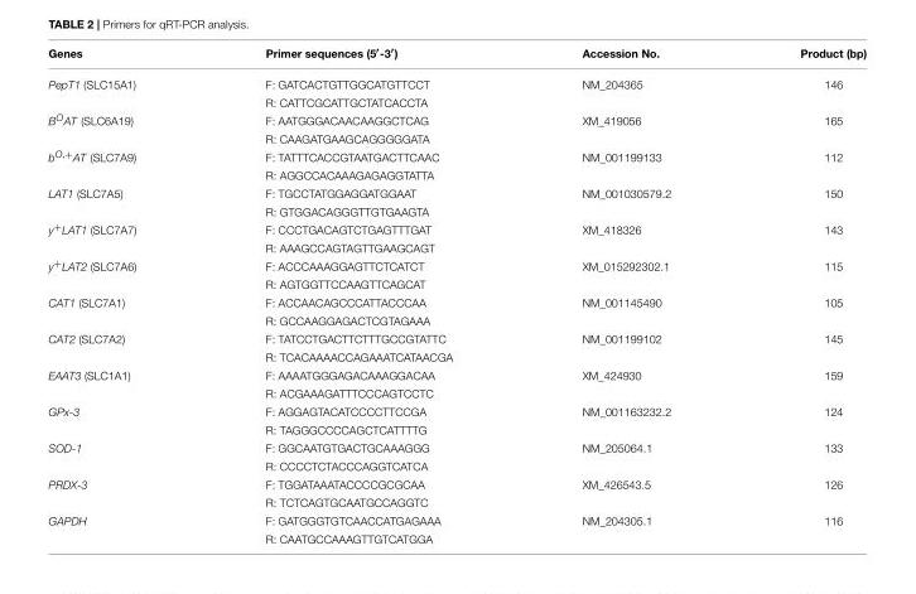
<table><thead><tr><td>Genes</td><td>Primer sequences (5′-3′)</td><td>Accession No.</td><td>Product (bp)</td></tr></thead><tbody><tr><td rowspan="2">PepT1 (SLC15A1)</td><td>F: GATCACTGTTGGCATGTTCCT</td><td>NM_204365</td><td>146</td></tr><tr><td>R: CATTCGCATTGCTATCACCTA</td><td></td><td></td></tr><tr><td rowspan="2">BOAT (SLC6A19)</td><td>F: AATGGGACAACAAGGCTCAG</td><td>XM_419056</td><td>165</td></tr><tr><td>R: CAAGATGAAGCAGGGGGATA</td><td></td><td></td></tr><tr><td rowspan="2">bO,+AT (SLC7A9)</td><td>F: TATTTCACCGTAATGACTTCAAC</td><td>NM_001199133</td><td>112</td></tr><tr><td>R: AGGCCACAAAGAGAGGTATTA</td><td></td><td></td></tr><tr><td rowspan="2">LAT1 (SLC7A5)</td><td>F: TGCCTATGGAGGATGGAAT</td><td>NM_001030579.2</td><td>150</td></tr><tr><td>R: GTGGACAGGGTTGTGAAGTA</td><td></td><td></td></tr><tr><td rowspan="2">y<sup>+</sup>LAT1 (SLC7A7)</td><td>F: CCCTGACAGTCTGAGTTTGAT</td><td>XM_418326</td><td>143</td></tr><tr><td>R: AAAGCCAGTAGTTGAAGCAGT</td><td></td><td></td></tr><tr><td rowspan="2">y<sup>+</sup>LAT2 (SLC7A6)</td><td>F: ACCCAAAGGAGTTCTCATCT</td><td>XM_015292302.1</td><td>115</td></tr><tr><td>R: AGTGGTTCCAAGTTCAGCAT</td><td></td><td></td></tr><tr><td rowspan="2">CAT1 (SLC7A1)</td><td>F: ACCAACAGCCCATTACCCAA</td><td>NM_001145490</td><td>105</td></tr><tr><td>R: GCCAAGGAGACTCGTAGAAA</td><td></td><td></td></tr><tr><td rowspan="2">CAT2 (SLC7A2)</td><td>F: TATCCTGACTTCTTTGCCGTATTC</td><td>NM_001199102</td><td>145</td></tr><tr><td>R: TCACAAAACCAGAAATCATAACGA</td><td></td><td></td></tr><tr><td rowspan="2">EAAT3 (SLC1A1)</td><td>F: AAAATGGGAGACAAAGGACAA</td><td>XM_424930</td><td>159</td></tr><tr><td>R: ACGAAAGATTTCCCAGTCCTC</td><td></td><td></td></tr><tr><td rowspan="2">GPx-3</td><td>F: AGGAGTACATCCCCTTCCGA</td><td>NM_001163232.2</td><td>124</td></tr><tr><td>R: TAGGGCCCCAGCTCATTTTG</td><td></td><td></td></tr><tr><td rowspan="2">SOD-1</td><td>F: GGCAATGTGACTGCAAAGGG</td><td>NM_205064.1</td><td>133</td></tr><tr><td>R: CCCCTCTACCCAGGTCATCA</td><td></td><td></td></tr><tr><td rowspan="2">PRDX-3</td><td>F: TGGATAAATACCCCGCGCAA</td><td>XM_426543.5</td><td>126</td></tr><tr><td>R: TCTCAGTGCAATGCCAGGTC</td><td></td><td></td></tr><tr><td rowspan="2">GAPDH</td><td>F: GATGGGTGTCAACCATGAGAAA</td><td>NM_204305.1</td><td>116</td></tr><tr><td>R: CAATGCCAAAGTTGTCATGGA</td><td></td><td></td></tr></tbody></table>